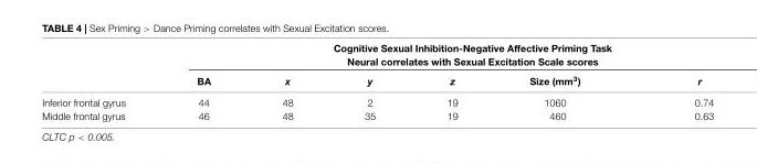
<table><thead><tr><td rowspan="2"></td><td colspan="6">Cognitive Sexual Inhibition-Negative Affective Priming Task Neural correlates with Sexual Excitation Scale scores</td></tr><tr><td>BA</td><td>x</td><td>y</td><td>z</td><td>Size (mm<sup>3</sup>)</td><td>r</td></tr></thead><tbody><tr><td>Inferior frontal gyrus</td><td>44</td><td>48</td><td>2</td><td>19</td><td>1060</td><td>0.74</td></tr><tr><td>Middle frontal gyrus</td><td>46</td><td>48</td><td>35</td><td>19</td><td>460</td><td>0.63</td></tr></tbody></table>